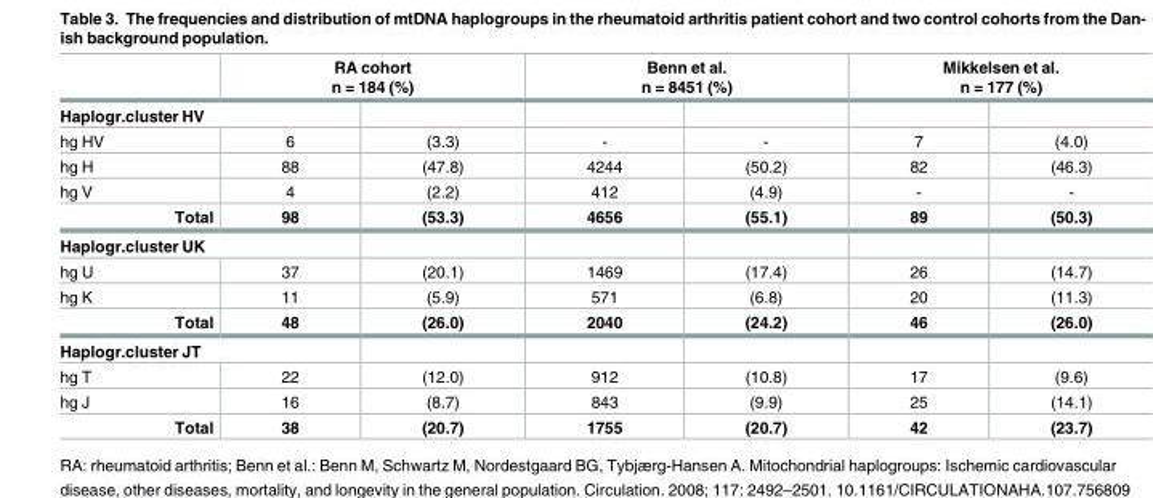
<table><thead><tr><td></td><td colspan="2">RA cohort n = 184 (%)</td><td colspan="2">Benn et al. n = 8451 (%)</td><td colspan="2">Mikkelsen et al. n = 177 (%)</td></tr><tr><td colspan="2">Haplogr.cluster HV</td><td rowspan="2">(3.3)</td><td rowspan="2">-</td><td rowspan="2">-</td><td rowspan="2">7</td><td rowspan="2">(4.0)</td></tr><tr><td>hg HV</td><td>6</td></tr></thead><tbody><tr><td>hg H</td><td>88</td><td>(47.8)</td><td>4244</td><td>(50.2)</td><td>82</td><td>(46.3)</td></tr><tr><td>hg V</td><td>4</td><td>(2.2)</td><td>412</td><td>(4.9)</td><td>-</td><td>-</td></tr><tr><td>Total</td><td>98</td><td>(53.3)</td><td>4656</td><td>(55.1)</td><td>89</td><td>(50.3)</td></tr><tr><td colspan="7">Haplogr.cluster UK</td></tr><tr><td>hg U</td><td>37</td><td>(20.1)</td><td>1469</td><td>(17.4)</td><td>26</td><td>(14.7)</td></tr><tr><td>hg K</td><td>11</td><td>(5.9)</td><td>571</td><td>(6.8)</td><td>20</td><td>(11.3)</td></tr><tr><td>Total</td><td>48</td><td>(26.0)</td><td>2040</td><td>(24.2)</td><td>46</td><td>(26.0)</td></tr><tr><td colspan="7">Haplogr.cluster JT</td></tr><tr><td>hg T</td><td>22</td><td>(12.0)</td><td>912</td><td>(10.8)</td><td>17</td><td>(9.6)</td></tr><tr><td>hg J</td><td>16</td><td>(8.7)</td><td>843</td><td>(9.9)</td><td>25</td><td>(14.1)</td></tr><tr><td>Total</td><td>38</td><td>(20.7)</td><td>1755</td><td>(20.7)</td><td>42</td><td>(23.7)</td></tr></tbody></table>